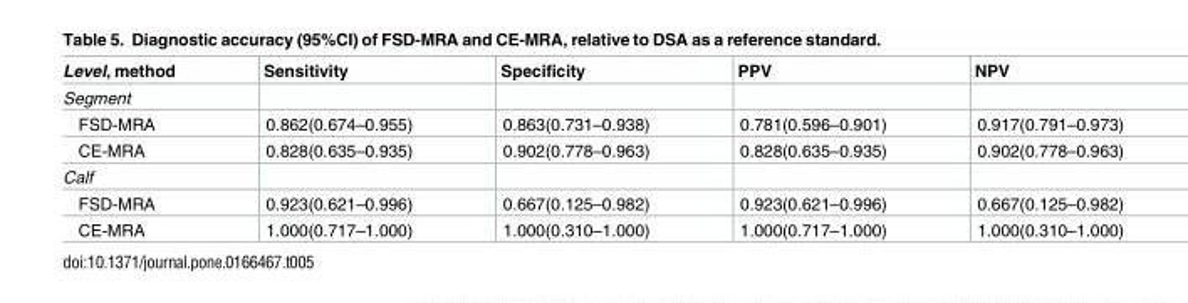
<table><thead><tr><td>Level, method</td><td>Sensitivity</td><td>Specificity</td><td>PPV</td><td>NPV</td></tr></thead><tbody><tr><td colspan="5">Segment</td></tr><tr><td>FSD-MRA</td><td>0.862(0.674–0.955)</td><td>0.863(0.731–0.938)</td><td>0.781(0.596–0.901)</td><td>0.917(0.791–0.973)</td></tr><tr><td>CE-MRA</td><td>0.828(0.635–0.935)</td><td>0.902(0.778–0.963)</td><td>0.828(0.635–0.935)</td><td>0.902(0.778–0.963)</td></tr><tr><td colspan="5">Calf</td></tr><tr><td>FSD-MRA</td><td>0.923(0.621–0.996)</td><td>0.667(0.125–0.982)</td><td>0.923(0.621–0.996)</td><td>0.667(0.125–0.982)</td></tr><tr><td>CE-MRA</td><td>1.000(0.717–1.000)</td><td>1.000(0.310–1.000)</td><td>1.000(0.717–1.000)</td><td>1.000(0.310–1.000)</td></tr></tbody></table>